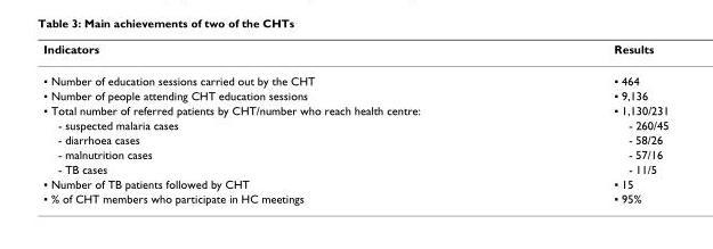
<table><thead><tr><td>Indicators</td><td>Results</td></tr></thead><tbody><tr><td>▪ Number of education sessions carried out by the CHT</td><td>▪ 464</td></tr><tr><td>▪ Number of people attending CHT education sessions</td><td>▪ 9,136</td></tr><tr><td>▪ Total number of referred patients by CHT/number who reach health centre:</td><td>▪ 1,130/231</td></tr><tr><td>- suspected malaria cases</td><td>- 260/45</td></tr><tr><td>- diarrhoea cases</td><td>- 58/26</td></tr><tr><td>- malnutrition cases</td><td>- 57/16</td></tr><tr><td>- TB cases</td><td>- 11/5</td></tr><tr><td>▪ Number of TB patients followed by CHT</td><td>▪ 15</td></tr><tr><td>▪ % of CHT members who participate in HC meetings</td><td>▪ 95%</td></tr></tbody></table>